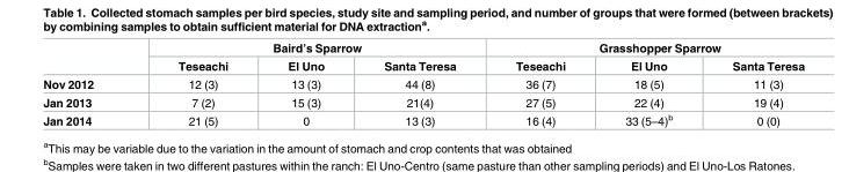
<table><thead><tr><td rowspan="2"></td><td colspan="3">Baird’s Sparrow</td><td colspan="3">Grasshopper Sparrow</td></tr><tr><td>Teseachi</td><td>El Uno</td><td>Santa Teresa</td><td>Teseachi</td><td>El Uno</td><td>Santa Teresa</td></tr></thead><tbody><tr><td>Nov 2012</td><td>12 (3)</td><td>13 (3)</td><td>44 (8)</td><td>36 (7)</td><td>18 (5)</td><td>11 (3)</td></tr><tr><td>Jan 2013</td><td>7 (2)</td><td>15 (3)</td><td>21(4)</td><td>27 (5)</td><td>22 (4)</td><td>19 (4)</td></tr><tr><td>Jan 2014</td><td>21 (5)</td><td>0</td><td>13 (3)</td><td>16 (4)</td><td>33 (5–4)<sup>b</sup></td><td>0 (0)</td></tr></tbody></table>